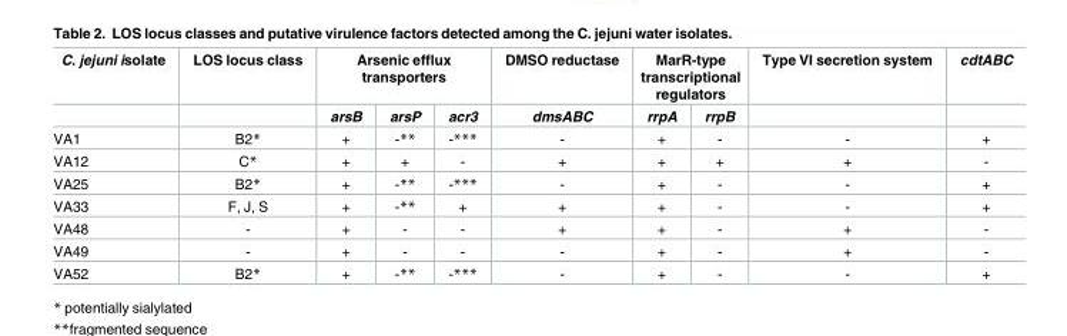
<table><thead><tr><td rowspan="2">C. jejuni isolate</td><td rowspan="2">LOS locus class</td><td colspan="3">Arsenic efflux transporters</td><td rowspan="2">DMSO reductase dmsABC</td><td colspan="2">MarR-type transcriptional regulators</td><td rowspan="2">Type VI secretion system</td><td rowspan="2">cdtABC</td></tr><tr><td>arsB</td><td>arsP</td><td>acr3</td><td>rrpA</td><td>rrpB</td></tr></thead><tbody><tr><td>VA1</td><td>B2*</td><td>+</td><td>-**</td><td>-***</td><td>-</td><td>+</td><td>-</td><td>-</td><td>+</td></tr><tr><td>VA12</td><td>C*</td><td>+</td><td>+</td><td>-</td><td>+</td><td>+</td><td>+</td><td>+</td><td>-</td></tr><tr><td>VA25</td><td>B2*</td><td>+</td><td>-**</td><td>-***</td><td>-</td><td>+</td><td>-</td><td>-</td><td>+</td></tr><tr><td>VA33</td><td>F, J, S</td><td>+</td><td>-**</td><td>+</td><td>+</td><td>+</td><td>-</td><td>-</td><td>+</td></tr><tr><td>VA48</td><td>-</td><td>+</td><td>-</td><td>-</td><td>+</td><td>+</td><td>-</td><td>+</td><td>-</td></tr><tr><td>VA49</td><td>-</td><td>+</td><td>-</td><td>-</td><td>-</td><td>+</td><td>-</td><td>+</td><td>-</td></tr><tr><td>VA52</td><td>B2*</td><td>+</td><td>-**</td><td>-***</td><td>-</td><td>+</td><td>-</td><td>-</td><td>+</td></tr></tbody></table>